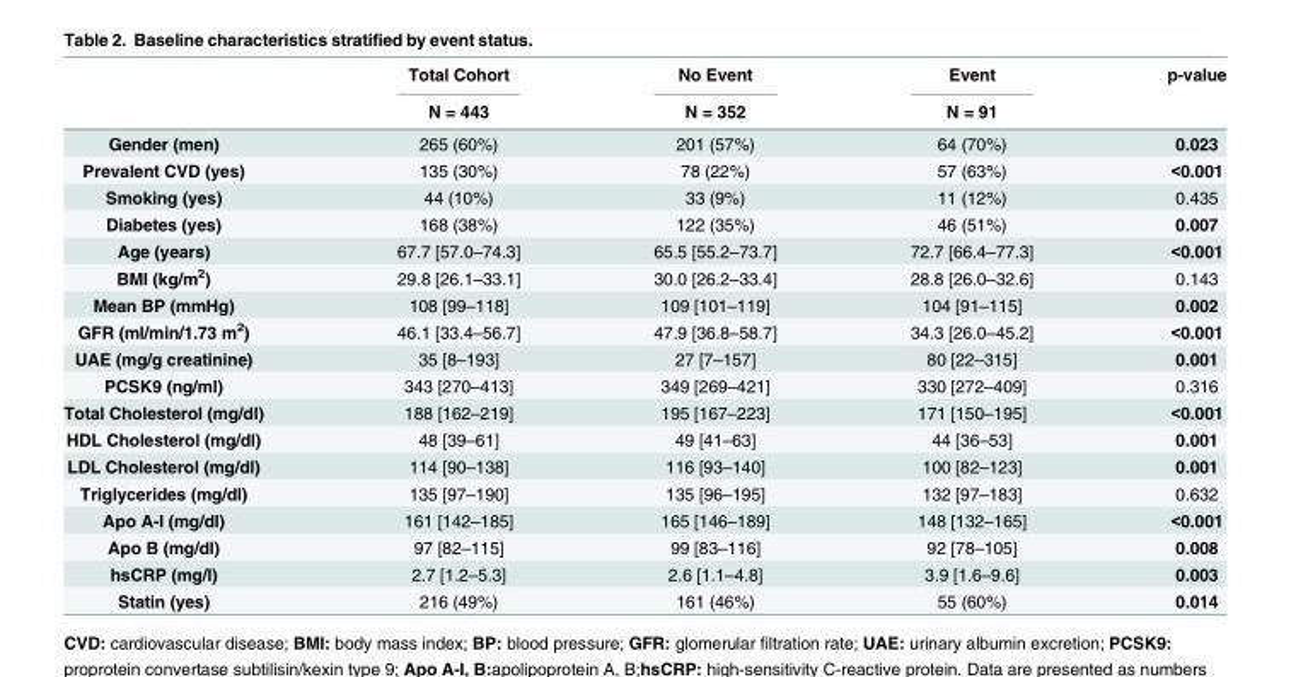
<table><thead><tr><td rowspan="2"></td><td rowspan="2">Total Cohort N = 443</td><td rowspan="2">No Event N = 352</td><td rowspan="2">Event N = 91</td><td rowspan="2">p-value</td></tr><tr></tr></thead><tbody><tr><td>Gender (men)</td><td>265 (60%)</td><td>201 (57%)</td><td>64 (70%)</td><td>0.023</td></tr><tr><td>Prevalent CVD (yes)</td><td>135 (30%)</td><td>78 (22%)</td><td>57 (63%)</td><td>&lt;0.001</td></tr><tr><td>Smoking (yes)</td><td>44 (10%)</td><td>33 (9%)</td><td>11 (12%)</td><td>0.435</td></tr><tr><td>Diabetes (yes)</td><td>168 (38%)</td><td>122 (35%)</td><td>46 (51%)</td><td>0.007</td></tr><tr><td>Age (years)</td><td>67.7 [57.0–74.3]</td><td>65.5 [55.2–73.7]</td><td>72.7 [66.4–77.3]</td><td>&lt;0.001</td></tr><tr><td>BMI (kg/m<sup>2</sup>)</td><td>29.8 [26.1–33.1]</td><td>30.0 [26.2–33.4]</td><td>28.8 [26.0–32.6]</td><td>0.143</td></tr><tr><td>Mean BP (mmHg)</td><td>108 [99–118]</td><td>109 [101–119]</td><td>104 [91–115]</td><td>0.002</td></tr><tr><td>GFR (ml/min/1.73 m<sup>2</sup>)</td><td>46.1 [33.4–56.7]</td><td>47.9 [36.8–58.7]</td><td>34.3 [26.0–45.2]</td><td>&lt;0.001</td></tr><tr><td>UAE (mg/g creatinine)</td><td>35 [8–193]</td><td>27 [7–157]</td><td>80 [22–315]</td><td>0.001</td></tr><tr><td>PCSK9 (ng/ml)</td><td>343 [270–413]</td><td>349 [269–421]</td><td>330 [272–409]</td><td>0.316</td></tr><tr><td>Total Cholesterol (mg/dl)</td><td>188 [162–219]</td><td>195 [167–223]</td><td>171 [150–195]</td><td>&lt;0.001</td></tr><tr><td>HDL Cholesterol (mg/dl)</td><td>48 [39–61]</td><td>49 [41–63]</td><td>44 [36–53]</td><td>0.001</td></tr><tr><td>LDL Cholesterol (mg/dl)</td><td>114 [90–138]</td><td>116 [93–140]</td><td>100 [82–123]</td><td>0.001</td></tr><tr><td>Triglycerides (mg/dl)</td><td>135 [97–190]</td><td>135 [96–195]</td><td>132 [97–183]</td><td>0.632</td></tr><tr><td>Apo A-I (mg/dl)</td><td>161 [142–185]</td><td>165 [146–189]</td><td>148 [132–165]</td><td>&lt;0.001</td></tr><tr><td>Apo B (mg/dl)</td><td>97 [82–115]</td><td>99 [83–116]</td><td>92 [78–105]</td><td>0.008</td></tr><tr><td>hsCRP (mg/l)</td><td>2.7 [1.2–5.3]</td><td>2.6 [1.1–4.8]</td><td>3.9 [1.6–9.6]</td><td>0.003</td></tr><tr><td>Statin (yes)</td><td>216 (49%)</td><td>161 (46%)</td><td>55 (60%)</td><td>0.014</td></tr></tbody></table>